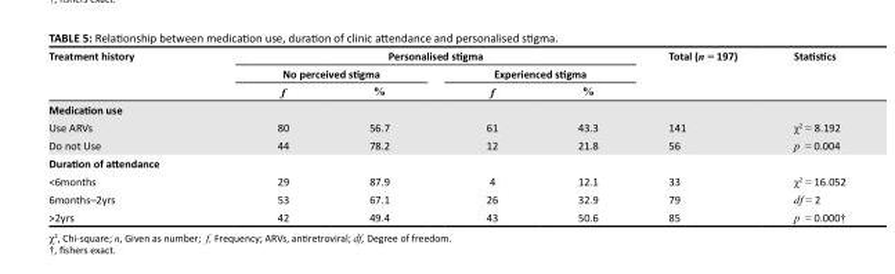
<table><thead><tr><td rowspan="3">Treatment history</td><td colspan="4">Personalised stigma</td><td rowspan="3">Total (n = 197)</td><td rowspan="3">Statistics</td></tr><tr><td colspan="2">No perceived stigma</td><td colspan="2">Experienced stigma</td></tr><tr><td>f</td><td>%</td><td>f</td><td>%</td></tr></thead><tbody><tr><td colspan="7">Medication use</td></tr><tr><td>Use ARVs</td><td>80</td><td>56.7</td><td>61</td><td>43.3</td><td>141</td><td>χ<sup>2</sup> = 8.192</td></tr><tr><td>Do not Use</td><td>44</td><td>78.2</td><td>12</td><td>21.8</td><td>56</td><td>p = 0.004</td></tr><tr><td colspan="7">Duration of attendance</td></tr><tr><td>&lt;6months</td><td>29</td><td>87.9</td><td>4</td><td>12.1</td><td>33</td><td>χ<sup>2</sup> = 16.052</td></tr><tr><td>6months–2yrs</td><td>53</td><td>67.1</td><td>26</td><td>32.9</td><td>79</td><td>df = 2</td></tr><tr><td>&gt;2yrs</td><td>42</td><td>49.4</td><td>43</td><td>50.6</td><td>85</td><td>p = 0.000†</td></tr></tbody></table>